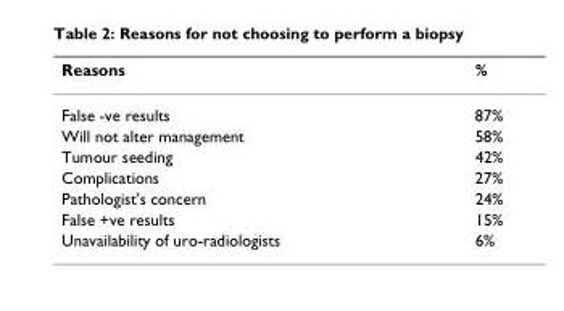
<table><thead><tr><td>Reasons</td><td>%</td></tr></thead><tbody><tr><td>False -ve results</td><td>87%</td></tr><tr><td>Will not alter management</td><td>58%</td></tr><tr><td>Tumour seeding</td><td>42%</td></tr><tr><td>Complications</td><td>27%</td></tr><tr><td>Pathologist&#x27;s concern</td><td>24%</td></tr><tr><td>False +ve results</td><td>15%</td></tr><tr><td>Unavailability of uro-radiologists</td><td>6%</td></tr></tbody></table>